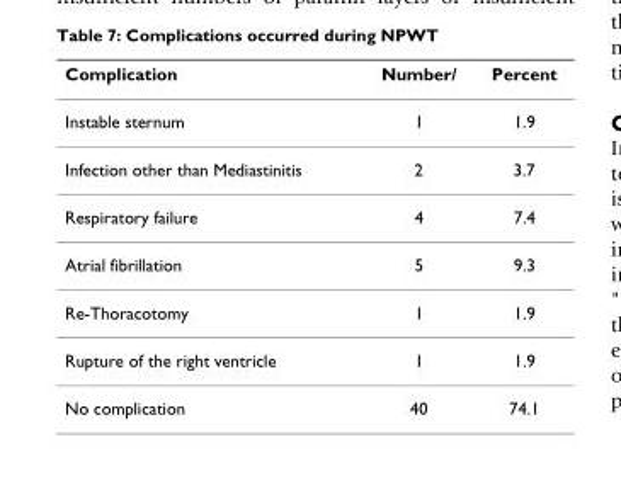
<table><thead><tr><td>Complication</td><td>Number/</td><td>Percent</td></tr></thead><tbody><tr><td>Instable sternum</td><td>1</td><td>1.9</td></tr><tr><td>Infection other than Mediastinitis</td><td>2</td><td>3.7</td></tr><tr><td>Respiratory failure</td><td>4</td><td>7.4</td></tr><tr><td>Atrial fibrillation</td><td>5</td><td>9.3</td></tr><tr><td>Re-Thoracotomy</td><td>1</td><td>1.9</td></tr><tr><td>Rupture of the right ventricle</td><td>1</td><td>1.9</td></tr><tr><td>No complication</td><td>40</td><td>74.1</td></tr></tbody></table>